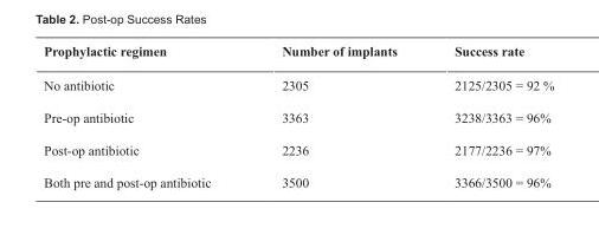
<table><thead><tr><td>Prophylactic regimen</td><td>Number of implants</td><td>Success rate</td></tr></thead><tbody><tr><td>No antibiotic</td><td>2305</td><td>2125/2305 = 92 %</td></tr><tr><td>Pre-op antibiotic</td><td>3363</td><td>3238/3363 = 96%</td></tr><tr><td>Post-op antibiotic</td><td>2236</td><td>2177/2236 = 97%</td></tr><tr><td>Both pre and post-op antibiotic</td><td>3500</td><td>3366/3500 = 96%</td></tr></tbody></table>